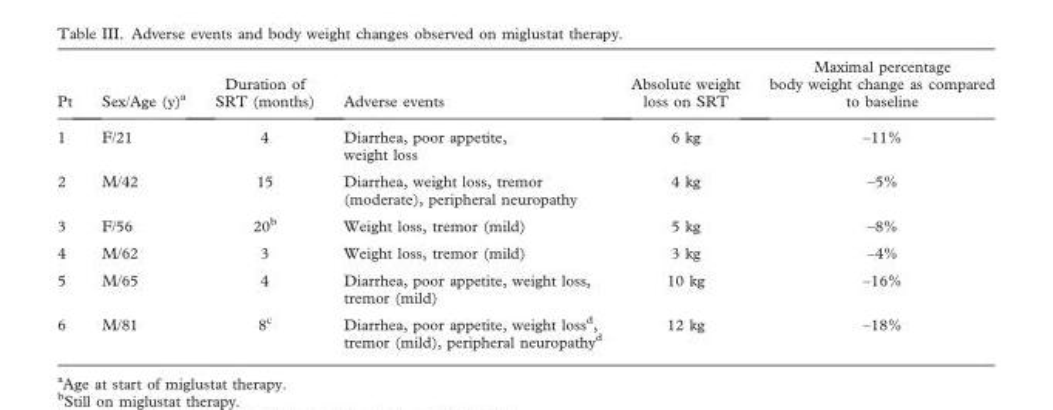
<table><thead><tr><td>Pt</td><td>Sex/Age (y)<sup>a</sup></td><td>Duration of SRT (months)</td><td>Adverse events</td><td>Absolute weight loss on SRT</td><td>Maximal percentage body weight change as compared to baseline</td></tr></thead><tbody><tr><td>1</td><td>F/21</td><td>4</td><td>Diarrhea, poor appetite, weight loss</td><td>6 kg</td><td>–11%</td></tr><tr><td>2</td><td>M/42</td><td>15</td><td>Diarrhea, weight loss, tremor (moderate), peripheral neuropathy</td><td>4 kg</td><td>–5%</td></tr><tr><td>3</td><td>F/56</td><td>20<sup>b</sup></td><td>Weight loss, tremor (mild)</td><td>5 kg</td><td>–8%</td></tr><tr><td>4</td><td>M/62</td><td>3</td><td>Weight loss, tremor (mild)</td><td>3 kg</td><td>–4%</td></tr><tr><td>5</td><td>M/65</td><td>4</td><td>Diarrhea, poor appetite, weight loss, tremor (mild)</td><td>10 kg</td><td>–16%</td></tr><tr><td>6</td><td>M/81</td><td>8<sup>c</sup></td><td>Diarrhea, poor appetite, weight loss<sup>d</sup>, tremor (mild), peripheral neuropathy<sup>d</sup></td><td>12 kg</td><td>–18%</td></tr></tbody></table>